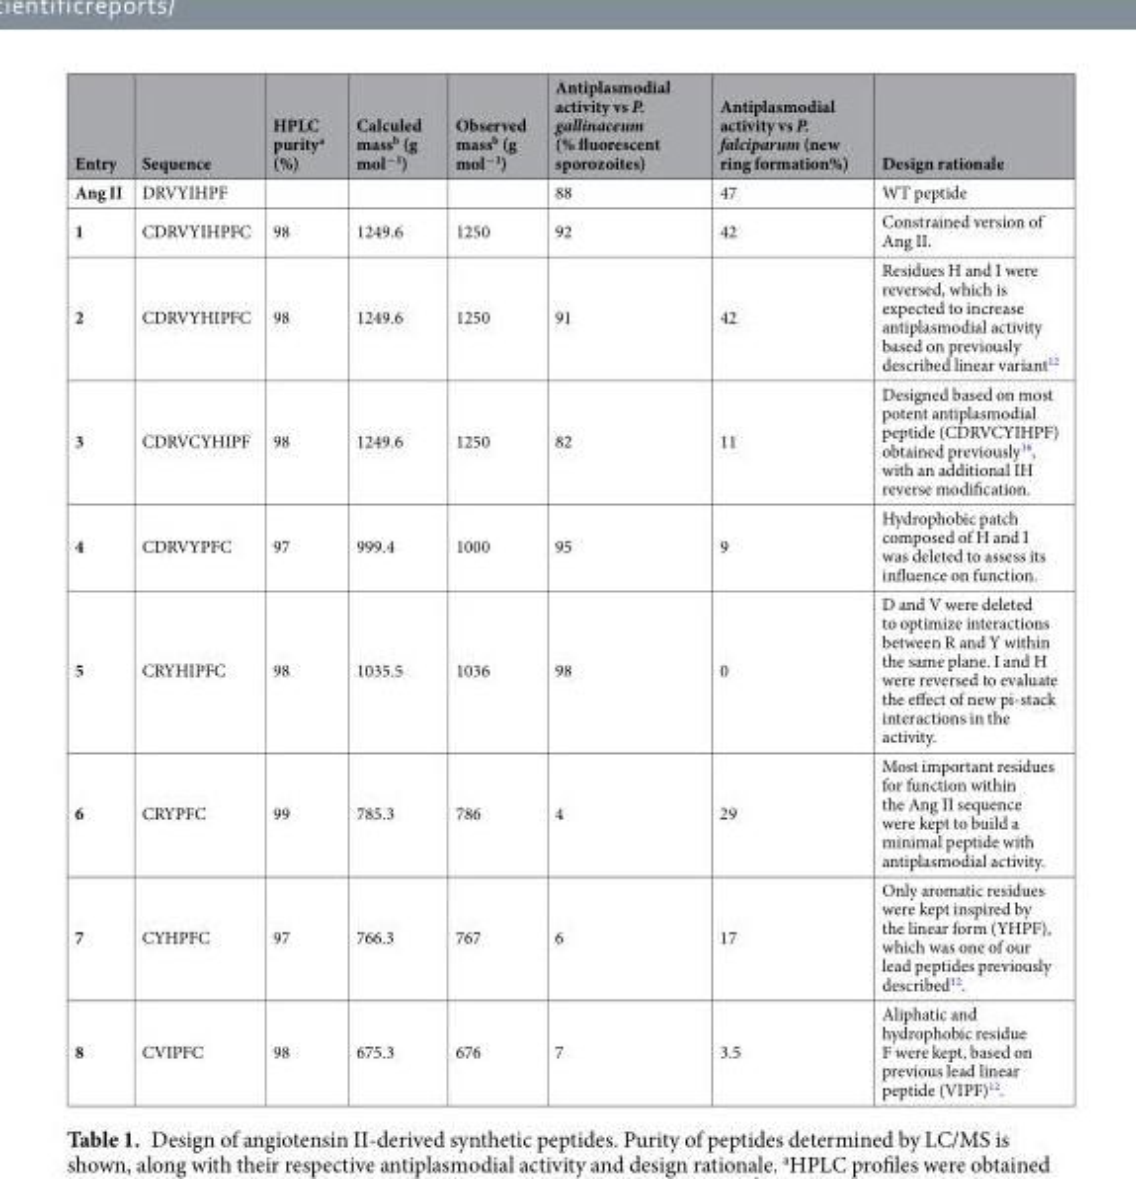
<table><thead><tr><td>Entry</td><td>Sequence</td><td>HPLC purity<sup>a</sup> (%)</td><td>Calculed mass<sup>b</sup> (g mol<sup>−1</sup>)</td><td>Observed mass<sup>b</sup> (g mol<sup>−1</sup>)</td><td>Antiplasmodial activity vs P. gallinaceum (% fluorescent sporozoites)</td><td>Antiplasmodial activity vs P. falciparum (new ring formation%)</td><td>Design rationale</td></tr></thead><tbody><tr><td>Ang II</td><td>DRVYIHPF</td><td></td><td></td><td></td><td>88</td><td>47</td><td>WT peptide</td></tr><tr><td>1</td><td>CDRVYIHPFC</td><td>98</td><td>1249.6</td><td>1250</td><td>92</td><td>42</td><td>Constrained version of Ang II.</td></tr><tr><td>2</td><td>CDRVYHIPFC</td><td>98</td><td>1249.6</td><td>1250</td><td>91</td><td>42</td><td>Residues H and I were reversed, which is expected to increase antiplasmodial activity based on previously described linear variant<sup>12</sup></td></tr><tr><td>3</td><td>CDRVCYHIPF</td><td>98</td><td>1249.6</td><td>1250</td><td>82</td><td>11</td><td>Designed based on most potent antiplasmodial peptide (CDRVCYIHPF) obtained previously<sup>16</sup>, with an additional IH reverse modification.</td></tr><tr><td>4</td><td>CDRVYPFC</td><td>97</td><td>999.4</td><td>1000</td><td>95</td><td>9</td><td>Hydrophobic patch composed of H and I was deleted to assess its influence on function.</td></tr><tr><td>5</td><td>CRYHIPFC</td><td>98</td><td>1035.5</td><td>1036</td><td>98</td><td>0</td><td>D and V were deleted to optimize interactions between R and Y within the same plane. I and H were reversed to evaluate the effect of new pi-stack interactions in the activity.</td></tr><tr><td>6</td><td>CRYPFC</td><td>99</td><td>785.3</td><td>786</td><td>4</td><td>29</td><td>Most important residues for function within the Ang II sequence were kept to build a minimal peptide with antiplasmodial activity.</td></tr><tr><td>7</td><td>CYHPFC</td><td>97</td><td>766.3</td><td>767</td><td>6</td><td>17</td><td>Only aromatic residues were kept inspired by the linear form (YHPF), which was one of our lead peptides previously described<sup>12</sup>.</td></tr><tr><td>8</td><td>CVIPFC</td><td>98</td><td>675.3</td><td>676</td><td>7</td><td>3.5</td><td>Aliphatic and hydrophobic residue F were kept, based on previous lead linear peptide (VIPF)<sup>12</sup>.</td></tr></tbody></table>